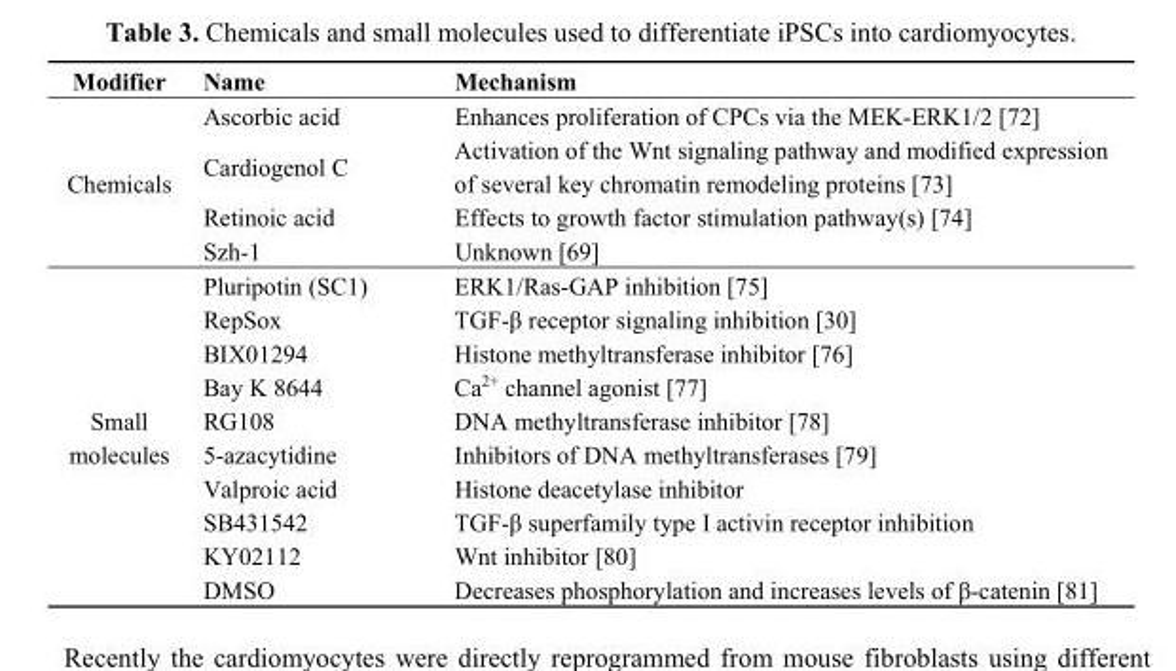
<table><thead><tr><td>Modifier</td><td>Name</td><td>Mechanism</td></tr></thead><tbody><tr><td rowspan="4">Chemicals</td><td>Ascorbic acid</td><td>Enhances proliferation of CPCs via the MEK-ERK1/2 [72]</td></tr><tr><td>Cardiogenol C</td><td>Activation of the Wnt signaling pathway and modified expression of several key chromatin remodeling proteins [73]</td></tr><tr><td>Retinoic acid</td><td>Effects to growth factor stimulation pathway(s) [74]</td></tr><tr><td>Szh-1</td><td>Unknown [69]</td></tr><tr><td rowspan="10">Small molecules</td><td>Pluripotin (SC1)</td><td>ERK1/Ras-GAP inhibition [75]</td></tr><tr><td>RepSox</td><td>TGF-β receptor signaling inhibition [30]</td></tr><tr><td>BIX01294</td><td>Histone methyltransferase inhibitor [76]</td></tr><tr><td>Bay K 8644</td><td>Ca<sup>2+</sup> channel agonist [77]</td></tr><tr><td>RG108</td><td>DNA methyltransferase inhibitor [78]</td></tr><tr><td>5-azacytidine</td><td>Inhibitors of DNA methyltransferases [79]</td></tr><tr><td>Valproic acid</td><td>Histone deacetylase inhibitor</td></tr><tr><td>SB431542</td><td>TGF-β superfamily type I activin receptor inhibition</td></tr><tr><td>KY02112</td><td>Wnt inhibitor [80]</td></tr><tr><td>DMSO</td><td>Decreases phosphorylation and increases levels of β-catenin [81]</td></tr></tbody></table>